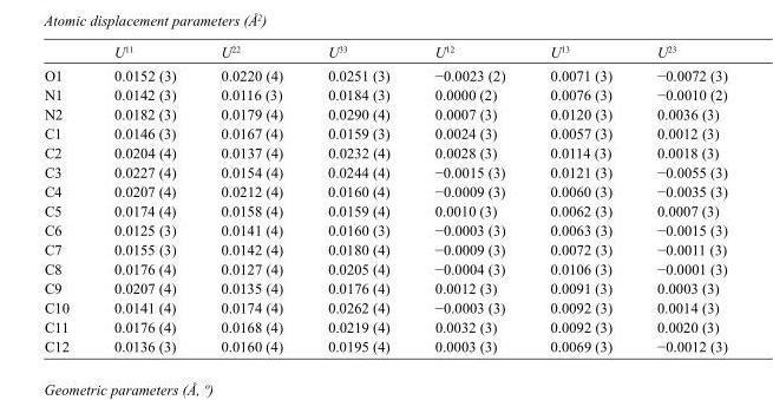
<table><thead><tr><td></td><td>U<sup>11</sup></td><td>U<sup>22</sup></td><td>U<sup>33</sup></td><td>U<sup>12</sup></td><td>U<sup>13</sup></td><td>U<sup>23</sup></td></tr></thead><tbody><tr><td>O1</td><td>0.0152 (3)</td><td>0.0220 (4)</td><td>0.0251 (3)</td><td>−0.0023 (2)</td><td>0.0071 (3)</td><td>−0.0072 (3)</td></tr><tr><td>N1</td><td>0.0142 (3)</td><td>0.0116 (3)</td><td>0.0184 (3)</td><td>0.0000 (2)</td><td>0.0076 (3)</td><td>−0.0010 (2)</td></tr><tr><td>N2</td><td>0.0182 (3)</td><td>0.0179 (4)</td><td>0.0290 (4)</td><td>0.0007 (3)</td><td>0.0120 (3)</td><td>0.0036 (3)</td></tr><tr><td>C1</td><td>0.0146 (3)</td><td>0.0167 (4)</td><td>0.0159 (3)</td><td>0.0024 (3)</td><td>0.0057 (3)</td><td>0.0012 (3)</td></tr><tr><td>C2</td><td>0.0204 (4)</td><td>0.0137 (4)</td><td>0.0232 (4)</td><td>0.0028 (3)</td><td>0.0114 (3)</td><td>0.0018 (3)</td></tr><tr><td>C3</td><td>0.0227 (4)</td><td>0.0154 (4)</td><td>0.0244 (4)</td><td>−0.0015 (3)</td><td>0.0121 (3)</td><td>−0.0055 (3)</td></tr><tr><td>C4</td><td>0.0207 (4)</td><td>0.0212 (4)</td><td>0.0160 (4)</td><td>−0.0009 (3)</td><td>0.0060 (3)</td><td>−0.0035 (3)</td></tr><tr><td>C5</td><td>0.0174 (4)</td><td>0.0158 (4)</td><td>0.0159 (4)</td><td>0.0010 (3)</td><td>0.0062 (3)</td><td>0.0007 (3)</td></tr><tr><td>C6</td><td>0.0125 (3)</td><td>0.0141 (4)</td><td>0.0160 (3)</td><td>−0.0003 (3)</td><td>0.0063 (3)</td><td>−0.0015 (3)</td></tr><tr><td>C7</td><td>0.0155 (3)</td><td>0.0142 (4)</td><td>0.0180 (4)</td><td>−0.0009 (3)</td><td>0.0072 (3)</td><td>−0.0011 (3)</td></tr><tr><td>C8</td><td>0.0176 (4)</td><td>0.0127 (4)</td><td>0.0205 (4)</td><td>−0.0004 (3)</td><td>0.0106 (3)</td><td>−0.0001 (3)</td></tr><tr><td>C9</td><td>0.0207 (4)</td><td>0.0135 (4)</td><td>0.0176 (4)</td><td>0.0012 (3)</td><td>0.0091 (3)</td><td>0.0003 (3)</td></tr><tr><td>C10</td><td>0.0141 (4)</td><td>0.0174 (4)</td><td>0.0262 (4)</td><td>−0.0003 (3)</td><td>0.0092 (3)</td><td>0.0014 (3)</td></tr><tr><td>C11</td><td>0.0176 (4)</td><td>0.0168 (4)</td><td>0.0219 (4)</td><td>0.0032 (3)</td><td>0.0092 (3)</td><td>0.0020 (3)</td></tr><tr><td>C12</td><td>0.0136 (3)</td><td>0.0160 (4)</td><td>0.0195 (4)</td><td>0.0003 (3)</td><td>0.0069 (3)</td><td>−0.0012 (3)</td></tr></tbody></table>